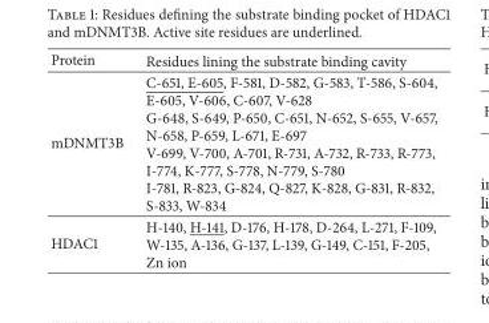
<table><thead><tr><td>Protein</td><td>Residues lining the substrate binding cavity</td></tr></thead><tbody><tr><td>mDNMT3B</td><td>C-651, E-605, F-581, D-582, G-583, T-586, S-604, E-605, V-606, C-607, V-628 G-648, S-649, P-650, C-651, N-652, S-655, V-657, N-658, P-659, L-671, E-697 V-699, V-700, A-701, R-731, A-732, R-733, R-773, I-774, K-777, S-778, N-779, S-780 I-781, R-823, G-824, Q-827, K-828, G-831, R-832, S-833, W-834</td></tr><tr><td>HDAC1</td><td>H-140, H-141, D-176, H-178, D-264, L-271, F-109, W-135, A-136, G-137, L-139, G-149, C-151, F-205, Zn ion</td></tr></tbody></table>